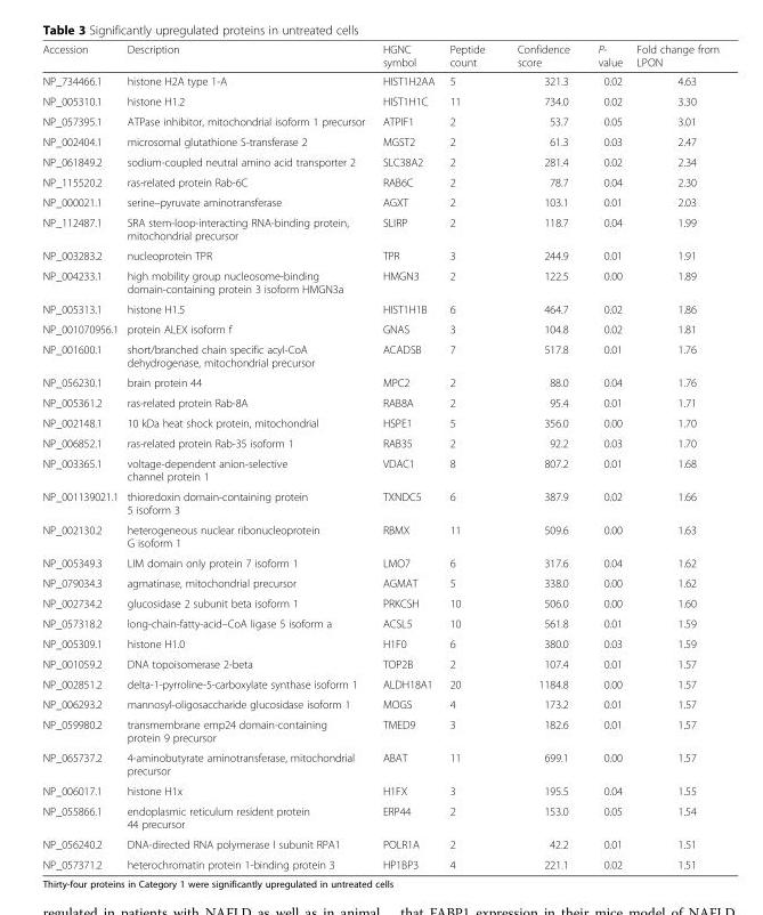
<table><thead><tr><td>Accession</td><td>Description</td><td>HGNC symbol</td><td>Peptide count</td><td>Confidence score</td><td>P- value</td><td>Fold change from LPON</td></tr></thead><tbody><tr><td>NP_734466.1</td><td>histone H2A type 1-A</td><td>HIST1H2AA</td><td>5</td><td>321.3</td><td>0.02</td><td>4.63</td></tr><tr><td>NP_005310.1</td><td>histone H1.2</td><td>HIST1H1C</td><td>11</td><td>734.0</td><td>0.02</td><td>3.30</td></tr><tr><td>NP_057395.1</td><td>ATPase inhibitor, mitochondrial isoform 1 precursor</td><td>ATPIF1</td><td>2</td><td>53.7</td><td>0.05</td><td>3.01</td></tr><tr><td>NP_002404.1</td><td>microsomal glutathione S-transferase 2</td><td>MGST2</td><td>2</td><td>61.3</td><td>0.03</td><td>2.47</td></tr><tr><td>NP_061849.2</td><td>sodium-coupled neutral amino acid transporter 2</td><td>SLC38A2</td><td>2</td><td>281.4</td><td>0.02</td><td>2.34</td></tr><tr><td>NP_115520.2</td><td>ras-related protein Rab-6C</td><td>RAB6C</td><td>2</td><td>78.7</td><td>0.04</td><td>2.30</td></tr><tr><td>NP_000021.1</td><td>serine–pyruvate aminotransferase</td><td>AGXT</td><td>2</td><td>103.1</td><td>0.01</td><td>2.03</td></tr><tr><td>NP_112487.1</td><td>SRA stem-loop-interacting RNA-binding protein, mitochondrial precursor</td><td>SLIRP</td><td>2</td><td>118.7</td><td>0.04</td><td>1.99</td></tr><tr><td>NP_003283.2</td><td>nucleoprotein TPR</td><td>TPR</td><td>3</td><td>244.9</td><td>0.01</td><td>1.91</td></tr><tr><td>NP_004233.1</td><td>high mobility group nucleosome-binding domain-containing protein 3 isoform HMGN3a</td><td>HMGN3</td><td>2</td><td>122.5</td><td>0.00</td><td>1.89</td></tr><tr><td>NP_005313.1</td><td>histone H1.5</td><td>HIST1H1B</td><td>6</td><td>464.7</td><td>0.02</td><td>1.86</td></tr><tr><td>NP_001070956.1</td><td>protein ALEX isoform f</td><td>GNAS</td><td>3</td><td>104.8</td><td>0.02</td><td>1.81</td></tr><tr><td>NP_001600.1</td><td>short/branched chain specific acyl-CoA dehydrogenase, mitochondrial precursor</td><td>ACADSB</td><td>7</td><td>517.8</td><td>0.01</td><td>1.76</td></tr><tr><td>NP_056230.1</td><td>brain protein 44</td><td>MPC2</td><td>2</td><td>88.0</td><td>0.04</td><td>1.76</td></tr><tr><td>NP_005361.2</td><td>ras-related protein Rab-8A</td><td>RAB8A</td><td>2</td><td>95.4</td><td>0.01</td><td>1.71</td></tr><tr><td>NP_002148.1</td><td>10 kDa heat shock protein, mitochondrial</td><td>HSPE1</td><td>5</td><td>356.0</td><td>0.00</td><td>1.70</td></tr><tr><td>NP_006852.1</td><td>ras-related protein Rab-35 isoform 1</td><td>RAB35</td><td>2</td><td>92.2</td><td>0.03</td><td>1.70</td></tr><tr><td>NP_003365.1</td><td>voltage-dependent anion-selective channel protein 1</td><td>VDAC1</td><td>8</td><td>807.2</td><td>0.01</td><td>1.68</td></tr><tr><td>NP_001139021.1</td><td>thioredoxin domain-containing protein 5 isoform 3</td><td>TXNDC5</td><td>6</td><td>387.9</td><td>0.02</td><td>1.66</td></tr><tr><td>NP_002130.2</td><td>heterogeneous nuclear ribonucleoprotein G isoform 1</td><td>RBMX</td><td>11</td><td>509.6</td><td>0.00</td><td>1.63</td></tr><tr><td>NP_005349.3</td><td>LIM domain only protein 7 isoform 1</td><td>LMO7</td><td>6</td><td>317.6</td><td>0.04</td><td>1.62</td></tr><tr><td>NP_079034.3</td><td>agmatinase, mitochondrial precursor</td><td>AGMAT</td><td>5</td><td>338.0</td><td>0.00</td><td>1.62</td></tr><tr><td>NP_002734.2</td><td>glucosidase 2 subunit beta isoform 1</td><td>PRKCSH</td><td>10</td><td>506.0</td><td>0.00</td><td>1.60</td></tr><tr><td>NP_057318.2</td><td>long-chain-fatty-acid–CoA ligase 5 isoform a</td><td>ACSL5</td><td>10</td><td>561.8</td><td>0.01</td><td>1.59</td></tr><tr><td>NP_005309.1</td><td>histone H1.0</td><td>H1F0</td><td>6</td><td>380.0</td><td>0.03</td><td>1.59</td></tr><tr><td>NP_001059.2</td><td>DNA topoisomerase 2-beta</td><td>TOP2B</td><td>2</td><td>107.4</td><td>0.01</td><td>1.57</td></tr><tr><td>NP_002851.2</td><td>delta-1-pyrroline-5-carboxylate synthase isoform 1</td><td>ALDH18A1</td><td>20</td><td>1184.8</td><td>0.00</td><td>1.57</td></tr><tr><td>NP_006293.2</td><td>mannosyl-oligosaccharide glucosidase isoform 1</td><td>MOGS</td><td>4</td><td>173.2</td><td>0.01</td><td>1.57</td></tr><tr><td>NP_059980.2</td><td>transmembrane emp24 domain-containing protein 9 precursor</td><td>TMED9</td><td>3</td><td>182.6</td><td>0.01</td><td>1.57</td></tr><tr><td>NP_065737.2</td><td>4-aminobutyrate aminotransferase, mitochondrial precursor</td><td>ABAT</td><td>11</td><td>699.1</td><td>0.00</td><td>1.57</td></tr><tr><td>NP_006017.1</td><td>histone H1x</td><td>H1FX</td><td>3</td><td>195.5</td><td>0.04</td><td>1.55</td></tr><tr><td>NP_055866.1</td><td>endoplasmic reticulum resident protein 44 precursor</td><td>ERP44</td><td>2</td><td>153.0</td><td>0.05</td><td>1.54</td></tr><tr><td>NP_056240.2</td><td>DNA-directed RNA polymerase I subunit RPA1</td><td>POLR1A</td><td>2</td><td>42.2</td><td>0.01</td><td>1.51</td></tr><tr><td>NP_057371.2</td><td>heterochromatin protein 1-binding protein 3</td><td>HP1BP3</td><td>4</td><td>221.1</td><td>0.02</td><td>1.51</td></tr></tbody></table>